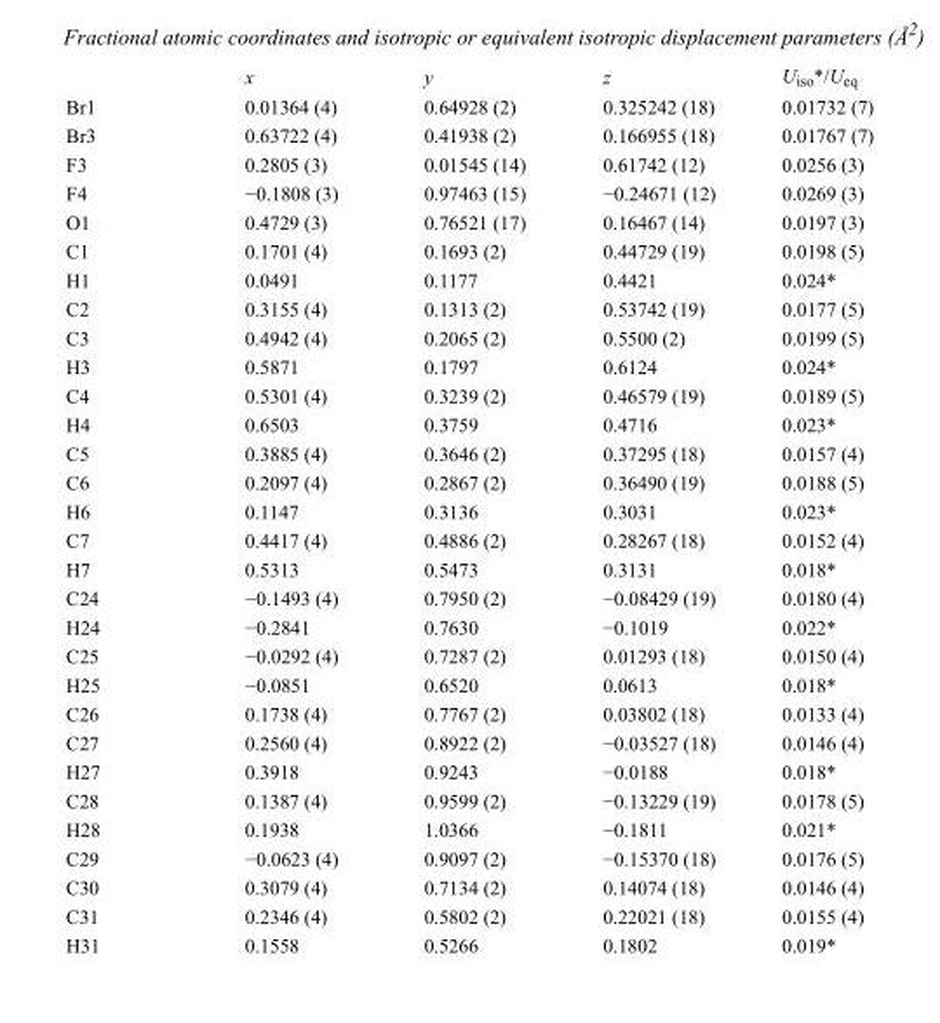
<table><thead><tr><td></td><td>x</td><td>y</td><td>z</td><td>U<sub>iso</sub>*/U<sub>eq</sub></td></tr></thead><tbody><tr><td>Br1</td><td>0.01364 (4)</td><td>0.64928 (2)</td><td>0.325242 (18)</td><td>0.01732 (7)</td></tr><tr><td>Br3</td><td>0.63722 (4)</td><td>0.41938 (2)</td><td>0.166955 (18)</td><td>0.01767 (7)</td></tr><tr><td>F3</td><td>0.2805 (3)</td><td>0.01545 (14)</td><td>0.61742 (12)</td><td>0.0256 (3)</td></tr><tr><td>F4</td><td>−0.1808 (3)</td><td>0.97463 (15)</td><td>−0.24671 (12)</td><td>0.0269 (3)</td></tr><tr><td>O1</td><td>0.4729 (3)</td><td>0.76521 (17)</td><td>0.16467 (14)</td><td>0.0197 (3)</td></tr><tr><td>C1</td><td>0.1701 (4)</td><td>0.1693 (2)</td><td>0.44729 (19)</td><td>0.0198 (5)</td></tr><tr><td>H1</td><td>0.0491</td><td>0.1177</td><td>0.4421</td><td>0.024*</td></tr><tr><td>C2</td><td>0.3155 (4)</td><td>0.1313 (2)</td><td>0.53742 (19)</td><td>0.0177 (5)</td></tr><tr><td>C3</td><td>0.4942 (4)</td><td>0.2065 (2)</td><td>0.5500 (2)</td><td>0.0199 (5)</td></tr><tr><td>H3</td><td>0.5871</td><td>0.1797</td><td>0.6124</td><td>0.024*</td></tr><tr><td>C4</td><td>0.5301 (4)</td><td>0.3239 (2)</td><td>0.46579 (19)</td><td>0.0189 (5)</td></tr><tr><td>H4</td><td>0.6503</td><td>0.3759</td><td>0.4716</td><td>0.023*</td></tr><tr><td>C5</td><td>0.3885 (4)</td><td>0.3646 (2)</td><td>0.37295 (18)</td><td>0.0157 (4)</td></tr><tr><td>C6</td><td>0.2097 (4)</td><td>0.2867 (2)</td><td>0.36490 (19)</td><td>0.0188 (5)</td></tr><tr><td>H6</td><td>0.1147</td><td>0.3136</td><td>0.3031</td><td>0.023*</td></tr><tr><td>C7</td><td>0.4417 (4)</td><td>0.4886 (2)</td><td>0.28267 (18)</td><td>0.0152 (4)</td></tr><tr><td>H7</td><td>0.5313</td><td>0.5473</td><td>0.3131</td><td>0.018*</td></tr><tr><td>C24</td><td>−0.1493 (4)</td><td>0.7950 (2)</td><td>−0.08429 (19)</td><td>0.0180 (4)</td></tr><tr><td>H24</td><td>−0.2841</td><td>0.7630</td><td>−0.1019</td><td>0.022*</td></tr><tr><td>C25</td><td>−0.0292 (4)</td><td>0.7287 (2)</td><td>0.01293 (18)</td><td>0.0150 (4)</td></tr><tr><td>H25</td><td>−0.0851</td><td>0.6520</td><td>0.0613</td><td>0.018*</td></tr><tr><td>C26</td><td>0.1738 (4)</td><td>0.7767 (2)</td><td>0.03802 (18)</td><td>0.0133 (4)</td></tr><tr><td>C27</td><td>0.2560 (4)</td><td>0.8922 (2)</td><td>−0.03527 (18)</td><td>0.0146 (4)</td></tr><tr><td>H27</td><td>0.3918</td><td>0.9243</td><td>−0.0188</td><td>0.018*</td></tr><tr><td>C28</td><td>0.1387 (4)</td><td>0.9599 (2)</td><td>−0.13229 (19)</td><td>0.0178 (5)</td></tr><tr><td>H28</td><td>0.1938</td><td>1.0366</td><td>−0.1811</td><td>0.021*</td></tr><tr><td>C29</td><td>−0.0623 (4)</td><td>0.9097 (2)</td><td>−0.15370 (18)</td><td>0.0176 (5)</td></tr><tr><td>C30</td><td>0.3079 (4)</td><td>0.7134 (2)</td><td>0.14074 (18)</td><td>0.0146 (4)</td></tr><tr><td>C31</td><td>0.2346 (4)</td><td>0.5802 (2)</td><td>0.22021 (18)</td><td>0.0155 (4)</td></tr><tr><td>H31</td><td>0.1558</td><td>0.5266</td><td>0.1802</td><td>0.019*</td></tr></tbody></table>